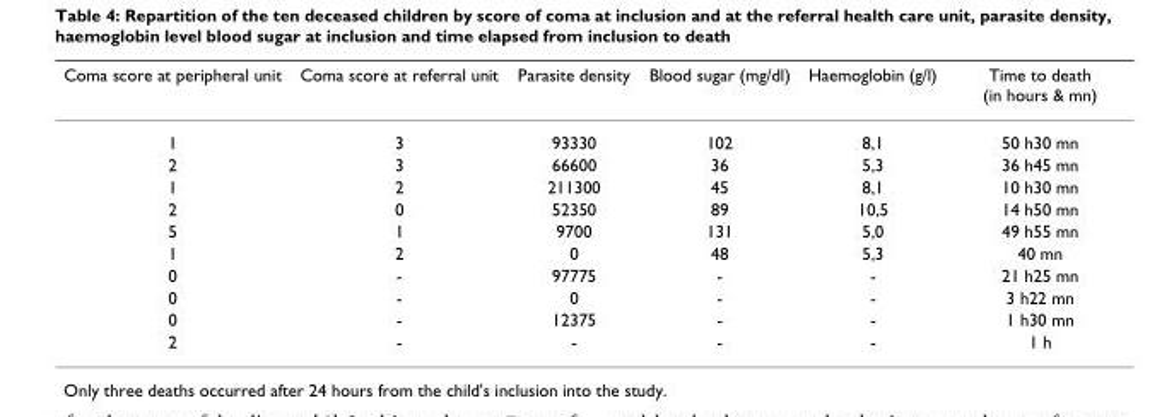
<table><thead><tr><td>Coma score at peripheral unit</td><td>Coma score at referral unit</td><td>Parasite density</td><td>Blood sugar (mg/dl)</td><td>Haemoglobin (g/l)</td><td>Time to death (in hours &amp; mn)</td></tr></thead><tbody><tr><td>1</td><td>3</td><td>93330</td><td>102</td><td>8,1</td><td>50 h30 mn</td></tr><tr><td>2</td><td>3</td><td>66600</td><td>36</td><td>5,3</td><td>36 h45 mn</td></tr><tr><td>1</td><td>2</td><td>211300</td><td>45</td><td>8,1</td><td>10 h30 mn</td></tr><tr><td>2</td><td>0</td><td>52350</td><td>89</td><td>10,5</td><td>14 h50 mn</td></tr><tr><td>5</td><td>1</td><td>9700</td><td>131</td><td>5,0</td><td>49 h55 mn</td></tr><tr><td>1</td><td>2</td><td>0</td><td>48</td><td>5,3</td><td>40 mn</td></tr><tr><td>0</td><td>-</td><td>97775</td><td>-</td><td>-</td><td>21 h25 mn</td></tr><tr><td>0</td><td>-</td><td>0</td><td>-</td><td>-</td><td>3 h22 mn</td></tr><tr><td>0</td><td>-</td><td>12375</td><td>-</td><td>-</td><td>1 h30 mn</td></tr><tr><td>2</td><td>-</td><td>-</td><td>-</td><td>-</td><td>1 h</td></tr></tbody></table>